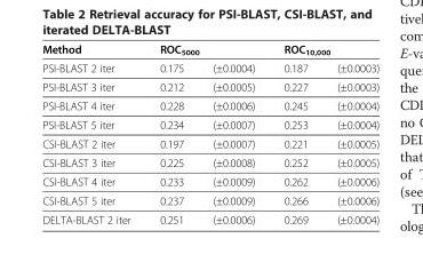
<table><thead><tr><td rowspan="2">Method PSI-BLAST 2 iter</td><td colspan="2">ROC<sub>5000</sub></td><td colspan="2">ROC<sub>10,000</sub></td></tr><tr><td>0.175</td><td>(±0.0004)</td><td>0.187</td><td>(±0.0003)</td></tr></thead><tbody><tr><td>PSI-BLAST 3 iter</td><td>0.212</td><td>(±0.0005)</td><td>0.227</td><td>(±0.0003)</td></tr><tr><td>PSI-BLAST 4 iter</td><td>0.228</td><td>(±0.0006)</td><td>0.245</td><td>(±0.0004)</td></tr><tr><td>PSI-BLAST 5 iter</td><td>0.234</td><td>(±0.0007)</td><td>0.253</td><td>(±0.0004)</td></tr><tr><td>CSI-BLAST 2 iter</td><td>0.197</td><td>(±0.0007)</td><td>0.221</td><td>(±0.0005)</td></tr><tr><td>CSI-BLAST 3 iter</td><td>0.225</td><td>(±0.0008)</td><td>0.252</td><td>(±0.0005)</td></tr><tr><td>CSI-BLAST 4 iter</td><td>0.233</td><td>(±0.0009)</td><td>0.262</td><td>(±0.0006)</td></tr><tr><td>CSI-BLAST 5 iter</td><td>0.237</td><td>(±0.0009)</td><td>0.266</td><td>(±0.0006)</td></tr><tr><td>DELTA-BLAST 2 iter</td><td>0.251</td><td>(±0.0006)</td><td>0.269</td><td>(±0.0004)</td></tr></tbody></table>